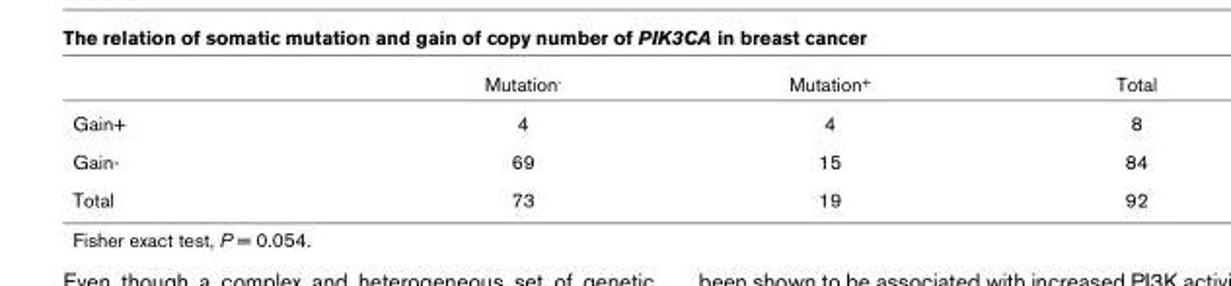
<table><thead><tr><td></td><td>Mutation-</td><td>Mutation+</td><td>Total</td></tr></thead><tbody><tr><td>Gain+</td><td>4</td><td>4</td><td>8</td></tr><tr><td>Gain-</td><td>69</td><td>15</td><td>84</td></tr><tr><td>Total</td><td>73</td><td>19</td><td>92</td></tr></tbody></table>